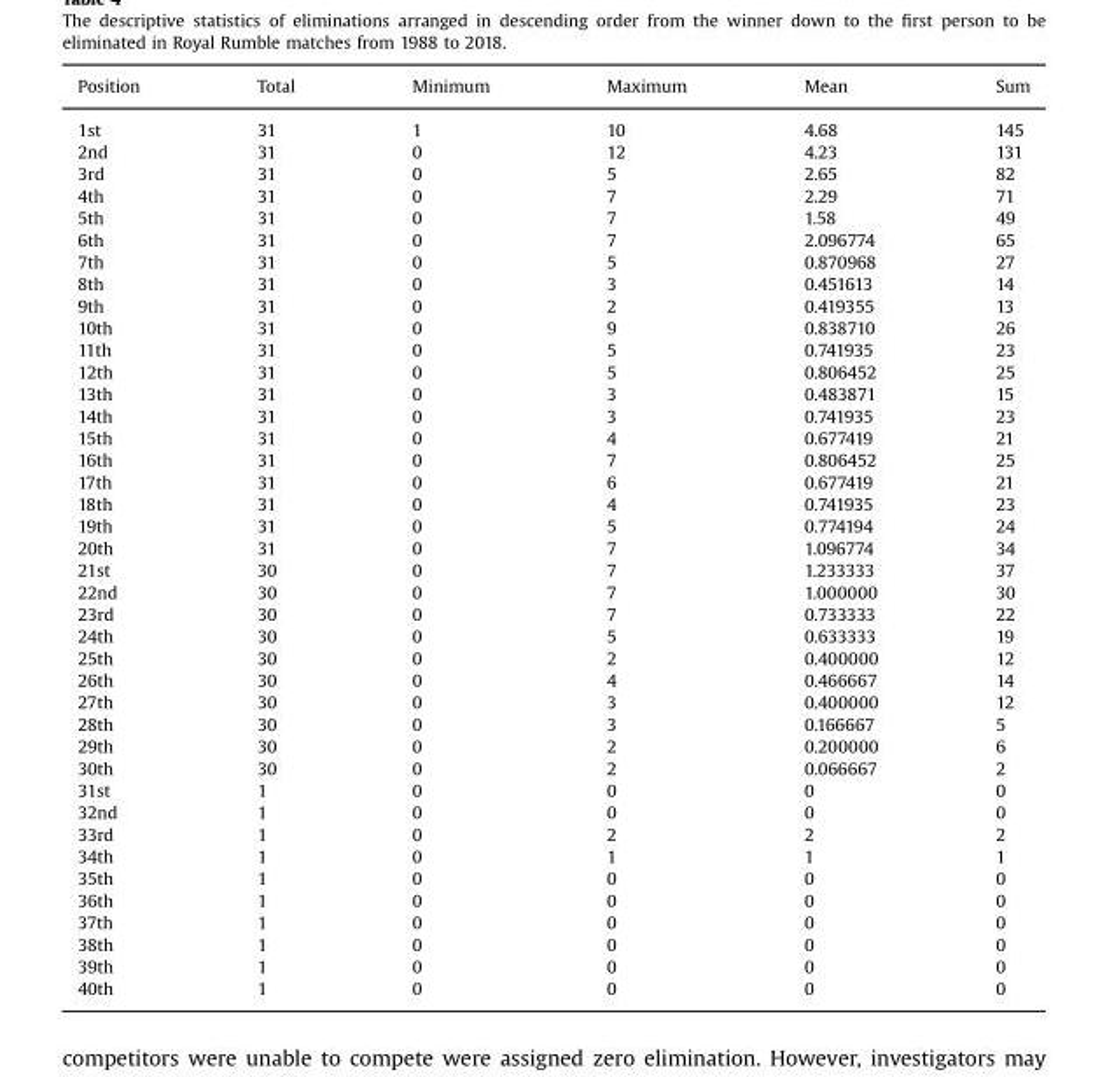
<table><thead><tr><td>Position</td><td>Total</td><td>Minimum</td><td>Maximum</td><td>Mean</td><td>Sum</td></tr></thead><tbody><tr><td>1st</td><td>31</td><td>1</td><td>10</td><td>4.68</td><td>145</td></tr><tr><td>2nd</td><td>31</td><td>0</td><td>12</td><td>4.23</td><td>131</td></tr><tr><td>3rd</td><td>31</td><td>0</td><td>5</td><td>2.65</td><td>82</td></tr><tr><td>4th</td><td>31</td><td>0</td><td>7</td><td>2.29</td><td>71</td></tr><tr><td>5th</td><td>31</td><td>0</td><td>7</td><td>1.58</td><td>49</td></tr><tr><td>6th</td><td>31</td><td>0</td><td>7</td><td>2.096774</td><td>65</td></tr><tr><td>7th</td><td>31</td><td>0</td><td>5</td><td>0.870968</td><td>27</td></tr><tr><td>8th</td><td>31</td><td>0</td><td>3</td><td>0.451613</td><td>14</td></tr><tr><td>9th</td><td>31</td><td>0</td><td>2</td><td>0.419355</td><td>13</td></tr><tr><td>10th</td><td>31</td><td>0</td><td>9</td><td>0.838710</td><td>26</td></tr><tr><td>11th</td><td>31</td><td>0</td><td>5</td><td>0.741935</td><td>23</td></tr><tr><td>12th</td><td>31</td><td>0</td><td>5</td><td>0.806452</td><td>25</td></tr><tr><td>13th</td><td>31</td><td>0</td><td>3</td><td>0.483871</td><td>15</td></tr><tr><td>14th</td><td>31</td><td>0</td><td>3</td><td>0.741935</td><td>23</td></tr><tr><td>15th</td><td>31</td><td>0</td><td>4</td><td>0.677419</td><td>21</td></tr><tr><td>16th</td><td>31</td><td>0</td><td>7</td><td>0.806452</td><td>25</td></tr><tr><td>17th</td><td>31</td><td>0</td><td>6</td><td>0.677419</td><td>21</td></tr><tr><td>18th</td><td>31</td><td>0</td><td>4</td><td>0.741935</td><td>23</td></tr><tr><td>19th</td><td>31</td><td>0</td><td>5</td><td>0.774194</td><td>24</td></tr><tr><td>20th</td><td>31</td><td>0</td><td>7</td><td>1.096774</td><td>34</td></tr><tr><td>21st</td><td>30</td><td>0</td><td>7</td><td>1.233333</td><td>37</td></tr><tr><td>22nd</td><td>30</td><td>0</td><td>7</td><td>1.000000</td><td>30</td></tr><tr><td>23rd</td><td>30</td><td>0</td><td>7</td><td>0.733333</td><td>22</td></tr><tr><td>24th</td><td>30</td><td>0</td><td>5</td><td>0.633333</td><td>19</td></tr><tr><td>25th</td><td>30</td><td>0</td><td>2</td><td>0.400000</td><td>12</td></tr><tr><td>26th</td><td>30</td><td>0</td><td>4</td><td>0.466667</td><td>14</td></tr><tr><td>27th</td><td>30</td><td>0</td><td>3</td><td>0.400000</td><td>12</td></tr><tr><td>28th</td><td>30</td><td>0</td><td>3</td><td>0.166667</td><td>5</td></tr><tr><td>29th</td><td>30</td><td>0</td><td>2</td><td>0.200000</td><td>6</td></tr><tr><td>30th</td><td>30</td><td>0</td><td>2</td><td>0.066667</td><td>2</td></tr><tr><td>31st</td><td>1</td><td>0</td><td>0</td><td>0</td><td>0</td></tr><tr><td>32nd</td><td>1</td><td>0</td><td>0</td><td>0</td><td>0</td></tr><tr><td>33rd</td><td>1</td><td>0</td><td>2</td><td>2</td><td>2</td></tr><tr><td>34th</td><td>1</td><td>0</td><td>1</td><td>1</td><td>1</td></tr><tr><td>35th</td><td>1</td><td>0</td><td>0</td><td>0</td><td>0</td></tr><tr><td>36th</td><td>1</td><td>0</td><td>0</td><td>0</td><td>0</td></tr><tr><td>37th</td><td>1</td><td>0</td><td>0</td><td>0</td><td>0</td></tr><tr><td>38th</td><td>1</td><td>0</td><td>0</td><td>0</td><td>0</td></tr><tr><td>39th</td><td>1</td><td>0</td><td>0</td><td>0</td><td>0</td></tr><tr><td>40th</td><td>1</td><td>0</td><td>0</td><td>0</td><td>0</td></tr></tbody></table>